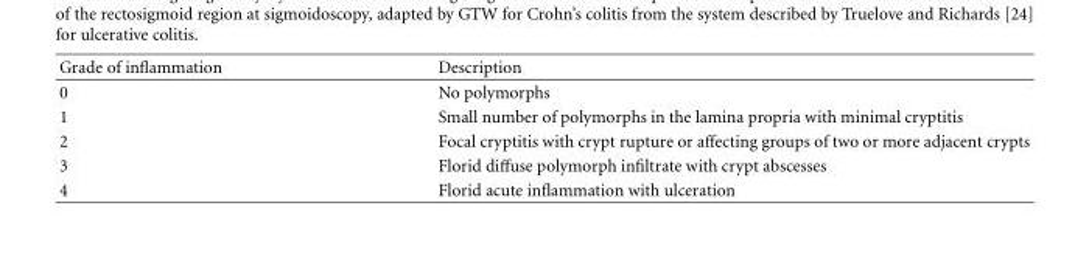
<table><thead><tr><td>Grade of inflammation</td><td>Description</td></tr></thead><tbody><tr><td>0</td><td>No polymorphs</td></tr><tr><td>1</td><td>Small number of polymorphs in the lamina propria with minimal cryptitis</td></tr><tr><td>2</td><td>Focal cryptitis with crypt rupture or affecting groups of two or more adjacent crypts</td></tr><tr><td>3</td><td>Florid diffuse polymorph infiltrate with crypt abscesses</td></tr><tr><td>4</td><td>Florid acute inflammation with ulceration</td></tr></tbody></table>